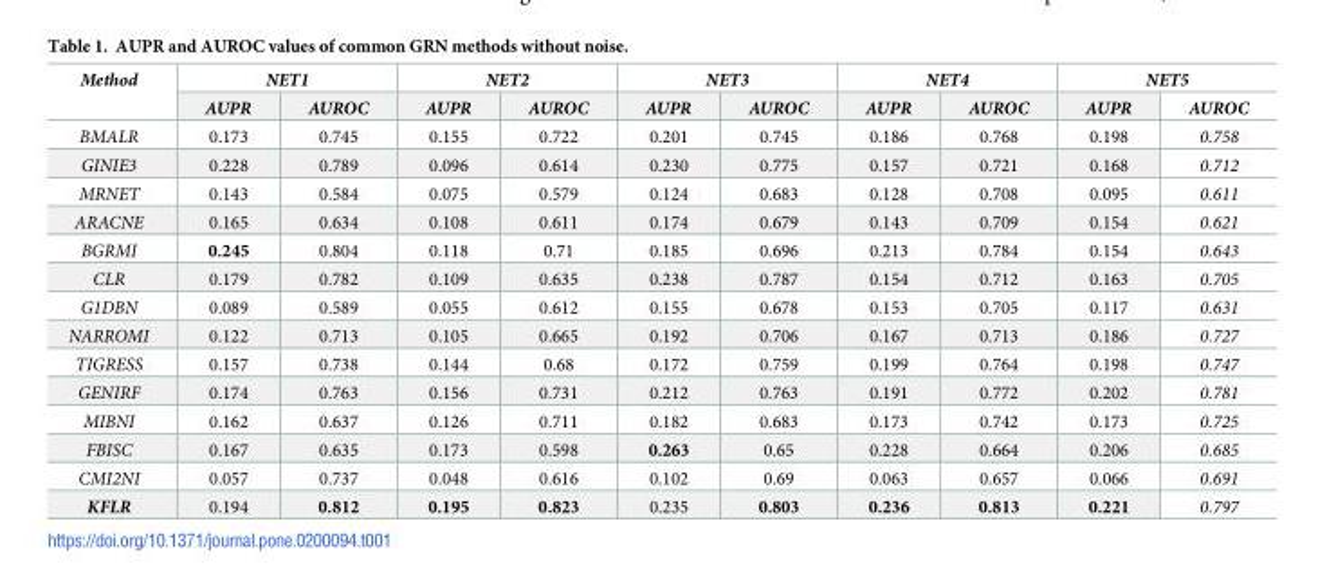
<table><thead><tr><td rowspan="2">Method</td><td colspan="2">NET1</td><td colspan="2">NET2</td><td colspan="2">NET3</td><td colspan="2">NET4</td><td colspan="2">NET5</td></tr><tr><td>AUPR</td><td>AUROC</td><td>AUPR</td><td>AUROC</td><td>AUPR</td><td>AUROC</td><td>AUPR</td><td>AUROC</td><td>AUPR</td><td>AUROC</td></tr></thead><tbody><tr><td>BMALR</td><td>0.173</td><td>0.745</td><td>0.155</td><td>0.722</td><td>0.201</td><td>0.745</td><td>0.186</td><td>0.768</td><td>0.198</td><td>0.758</td></tr><tr><td>GINIE3</td><td>0.228</td><td>0.789</td><td>0.096</td><td>0.614</td><td>0.230</td><td>0.775</td><td>0.157</td><td>0.721</td><td>0.168</td><td>0.712</td></tr><tr><td>MRNET</td><td>0.143</td><td>0.584</td><td>0.075</td><td>0.579</td><td>0.124</td><td>0.683</td><td>0.128</td><td>0.708</td><td>0.095</td><td>0.611</td></tr><tr><td>ARACNE</td><td>0.165</td><td>0.634</td><td>0.108</td><td>0.611</td><td>0.174</td><td>0.679</td><td>0.143</td><td>0.709</td><td>0.154</td><td>0.621</td></tr><tr><td>BGRMI</td><td>0.245</td><td>0.804</td><td>0.118</td><td>0.71</td><td>0.185</td><td>0.696</td><td>0.213</td><td>0.784</td><td>0.154</td><td>0.643</td></tr><tr><td>CLR</td><td>0.179</td><td>0.782</td><td>0.109</td><td>0.635</td><td>0.238</td><td>0.787</td><td>0.154</td><td>0.712</td><td>0.163</td><td>0.705</td></tr><tr><td>G1DBN</td><td>0.089</td><td>0.589</td><td>0.055</td><td>0.612</td><td>0.155</td><td>0.678</td><td>0.153</td><td>0.705</td><td>0.117</td><td>0.631</td></tr><tr><td>NARROMI</td><td>0.122</td><td>0.713</td><td>0.105</td><td>0.665</td><td>0.192</td><td>0.706</td><td>0.167</td><td>0.713</td><td>0.186</td><td>0.727</td></tr><tr><td>TIGRESS</td><td>0.157</td><td>0.738</td><td>0.144</td><td>0.68</td><td>0.172</td><td>0.759</td><td>0.199</td><td>0.764</td><td>0.198</td><td>0.747</td></tr><tr><td>GENIRF</td><td>0.174</td><td>0.763</td><td>0.156</td><td>0.731</td><td>0.212</td><td>0.763</td><td>0.191</td><td>0.772</td><td>0.202</td><td>0.781</td></tr><tr><td>MIBNI</td><td>0.162</td><td>0.637</td><td>0.126</td><td>0.711</td><td>0.182</td><td>0.683</td><td>0.173</td><td>0.742</td><td>0.173</td><td>0.725</td></tr><tr><td>FBISC</td><td>0.167</td><td>0.635</td><td>0.173</td><td>0.598</td><td>0.263</td><td>0.65</td><td>0.228</td><td>0.664</td><td>0.206</td><td>0.685</td></tr><tr><td>CMI2NI</td><td>0.057</td><td>0.737</td><td>0.048</td><td>0.616</td><td>0.102</td><td>0.69</td><td>0.063</td><td>0.657</td><td>0.066</td><td>0.691</td></tr><tr><td>KFLR</td><td>0.194</td><td>0.812</td><td>0.195</td><td>0.823</td><td>0.235</td><td>0.803</td><td>0.236</td><td>0.813</td><td>0.221</td><td>0.797</td></tr></tbody></table>